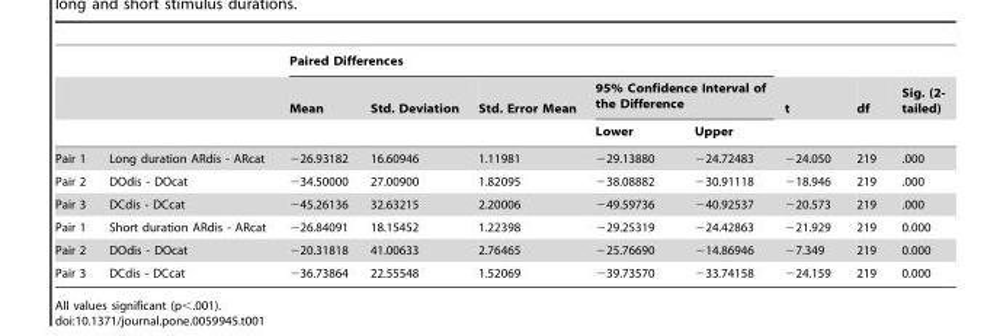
<table><thead><tr><td rowspan="3"></td><td rowspan="3"></td><td colspan="5">Paired Differences</td><td rowspan="3">t</td><td rowspan="3">df</td><td rowspan="3">Sig. (2- tailed)</td></tr><tr><td rowspan="2">Mean</td><td rowspan="2">Std. Deviation</td><td rowspan="2">Std. Error Mean</td><td colspan="2">95% Confidence Interval of the Difference</td></tr><tr><td>Lower</td><td>Upper</td></tr></thead><tbody><tr><td>Pair 1</td><td>Long duration ARdis - ARcat</td><td>−26.93182</td><td>16.60946</td><td>1.11981</td><td>−29.13880</td><td>−24.72483</td><td>−24.050</td><td>219</td><td>.000</td></tr><tr><td>Pair 2</td><td>DOdis - DOcat</td><td>−34.50000</td><td>27.00900</td><td>1.82095</td><td>−38.08882</td><td>−30.91118</td><td>−18.946</td><td>219</td><td>.000</td></tr><tr><td>Pair 3</td><td>DCdis - DCcat</td><td>−45.26136</td><td>32.63215</td><td>2.20006</td><td>−49.59736</td><td>−40.92537</td><td>−20.573</td><td>219</td><td>.000</td></tr><tr><td>Pair 1</td><td>Short duration ARdis - ARcat</td><td>−26.84091</td><td>18.15452</td><td>1.22398</td><td>−29.25319</td><td>−24.42863</td><td>−21.929</td><td>219</td><td>0.000</td></tr><tr><td>Pair 2</td><td>DOdis - DOcat</td><td>−20.31818</td><td>41.00633</td><td>2.76465</td><td>−25.76690</td><td>−14.86946</td><td>−7.349</td><td>219</td><td>0.000</td></tr><tr><td>Pair 3</td><td>DCdis - DCcat</td><td>−36.73864</td><td>22.55548</td><td>1.52069</td><td>−39.73570</td><td>−33.74158</td><td>−24.159</td><td>219</td><td>0.000</td></tr></tbody></table>